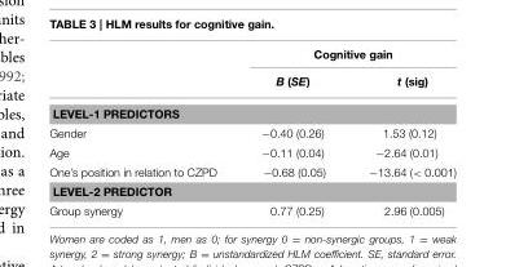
<table><thead><tr><td rowspan="2"></td><td colspan="2">Cognitive gain</td></tr><tr><td>B (SE)</td><td>t (sig)</td></tr></thead><tbody><tr><td colspan="3">LEVEL-1 PREDICTORS</td></tr><tr><td>Gender</td><td>−0.40 (0.26)</td><td>1.53 (0.12)</td></tr><tr><td>Age</td><td>−0.11 (0.04)</td><td>−2.64 (0.01)</td></tr><tr><td>One’s position in relation to CZPD</td><td>−0.68 (0.05)</td><td>−13.64 (&lt; 0.001)</td></tr><tr><td colspan="3">LEVEL-2 PREDICTOR</td></tr><tr><td>Group synergy</td><td>0.77 (0.25)</td><td>2.96 (0.005)</td></tr></tbody></table>